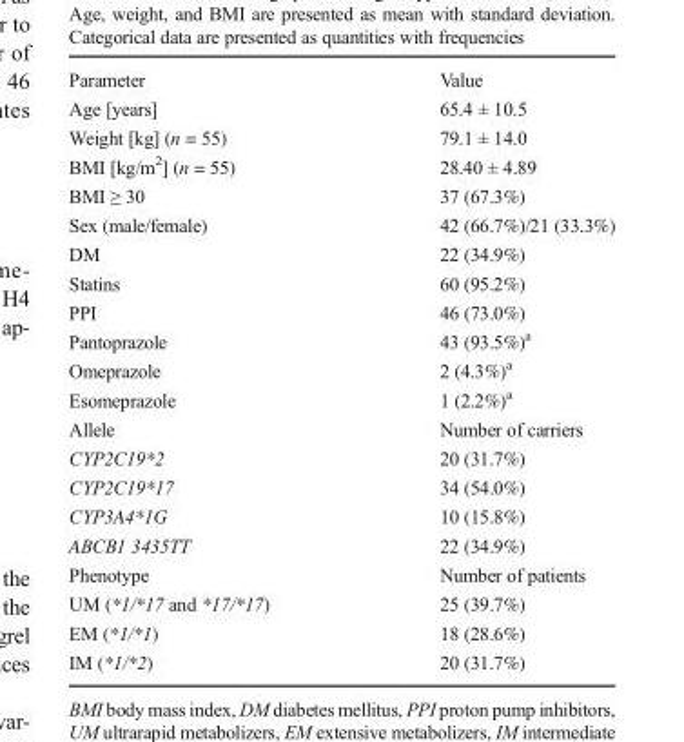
<table><tbody><tr><td>Parameter</td><td>Value</td></tr><tr><td>Age [years]</td><td>65.4 ± 10.5</td></tr><tr><td>Weight [kg] (n = 55)</td><td>79.1 ± 14.0</td></tr><tr><td>BMI [kg/m<sup>2</sup>] (n = 55)</td><td>28.40 ± 4.89</td></tr><tr><td>BMI ≥ 30</td><td>37 (67.3%)</td></tr><tr><td>Sex (male/female)</td><td>42 (66.7%)/21 (33.3%)</td></tr><tr><td>DM</td><td>22 (34.9%)</td></tr><tr><td>Statins</td><td>60 (95.2%)</td></tr><tr><td>PPI</td><td>46 (73.0%)</td></tr><tr><td>Pantoprazole</td><td>43 (93.5%)<sup>a</sup></td></tr><tr><td>Omeprazole</td><td>2 (4.3%)<sup>a</sup></td></tr><tr><td>Esomeprazole</td><td>1 (2.2%)<sup>a</sup></td></tr><tr><td>Allele</td><td>Number of carriers</td></tr><tr><td>CYP2C19*2</td><td>20 (31.7%)</td></tr><tr><td>CYP2C19*17</td><td>34 (54.0%)</td></tr><tr><td>CYP3A4*1G</td><td>10 (15.8%)</td></tr><tr><td>ABCB1 3435TT</td><td>22 (34.9%)</td></tr><tr><td>Phenotype</td><td>Number of patients</td></tr><tr><td>UM (*1/*17 and *17/*17)</td><td>25 (39.7%)</td></tr><tr><td>EM (*1/*1)</td><td>18 (28.6%)</td></tr><tr><td>IM (*1/*2)</td><td>20 (31.7%)</td></tr></tbody></table>